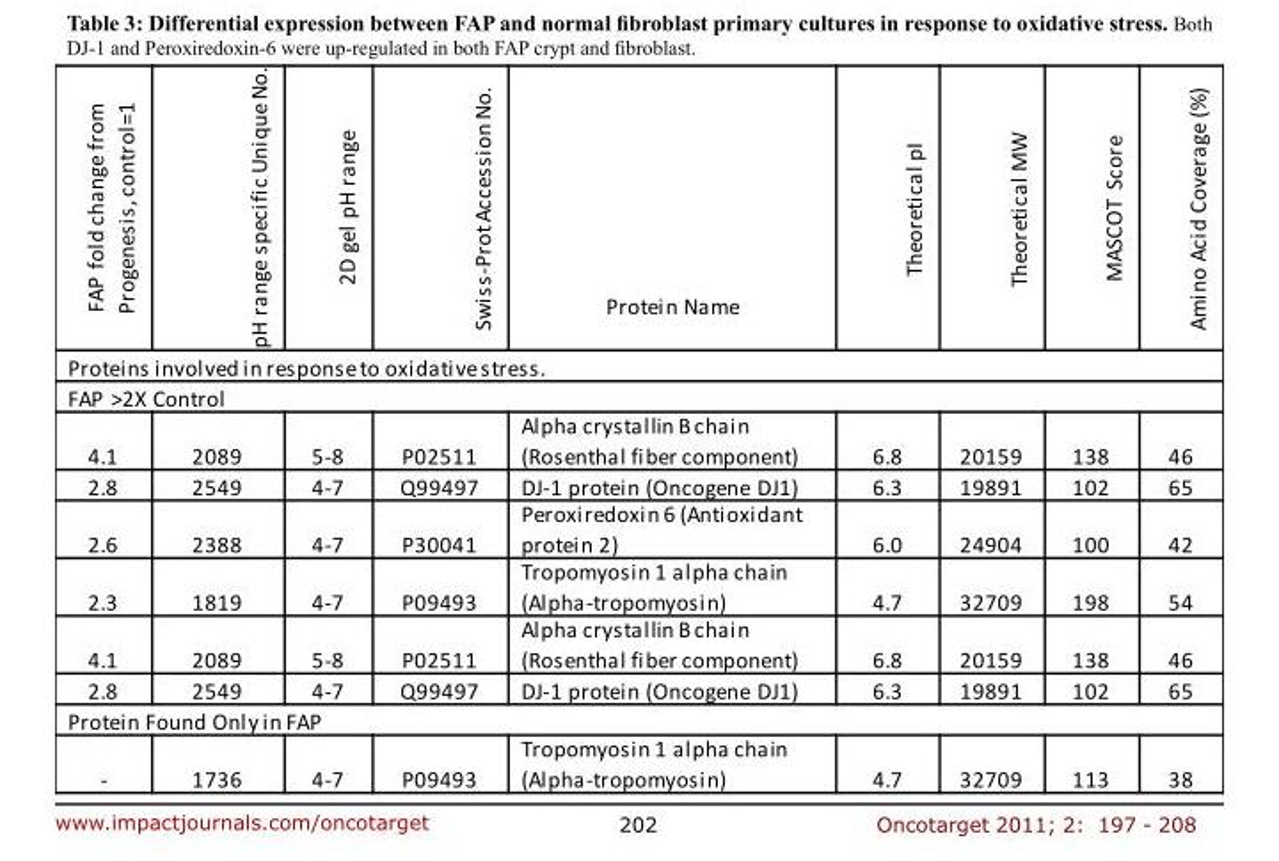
<table><thead><tr><td>FAP fold change from Progenesis, control=1</td><td>pH range specific Unique No.</td><td>2D gel pH range</td><td>Swiss-Prot Accession No.</td><td>Protein Name</td><td>Theoretical pI</td><td>Theoretical MW</td><td>MASCOT Score</td><td>Amino Acid Coverage (%)</td></tr></thead><tbody><tr><td colspan="9">Proteins involved in response to oxidative stress.</td></tr><tr><td colspan="9">FAP &gt;2X Control</td></tr><tr><td>4.1</td><td>2089</td><td>5-8</td><td>P02511</td><td>Alpha crystallin B chain (Rosenthal fiber component)</td><td>6.8</td><td>20159</td><td>138</td><td>46</td></tr><tr><td>2.8</td><td>2549</td><td>4-7</td><td>Q99497</td><td>DJ-1 protein (Oncogene DJ1)</td><td>6.3</td><td>19891</td><td>102</td><td>65</td></tr><tr><td>2.6</td><td>2388</td><td>4-7</td><td>P30041</td><td>Peroxiredoxin 6 (Antioxidant protein 2)</td><td>6.0</td><td>24904</td><td>100</td><td>42</td></tr><tr><td>2.3</td><td>1819</td><td>4-7</td><td>P09493</td><td>Tropomyosin 1 alpha chain (Alpha-tropomyosin)</td><td>4.7</td><td>32709</td><td>198</td><td>54</td></tr><tr><td>4.1</td><td>2089</td><td>5-8</td><td>P02511</td><td>Alpha crystallin B chain (Rosenthal fiber component)</td><td>6.8</td><td>20159</td><td>138</td><td>46</td></tr><tr><td>2.8</td><td>2549</td><td>4-7</td><td>Q99497</td><td>DJ-1 protein (Oncogene DJ1)</td><td>6.3</td><td>19891</td><td>102</td><td>65</td></tr><tr><td colspan="9">Protein Found Only in FAP</td></tr><tr><td>-</td><td>1736</td><td>4-7</td><td>P09493</td><td>Tropomyosin 1 alpha chain (Alpha-tropomyosin)</td><td>4.7</td><td>32709</td><td>113</td><td>38</td></tr></tbody></table>